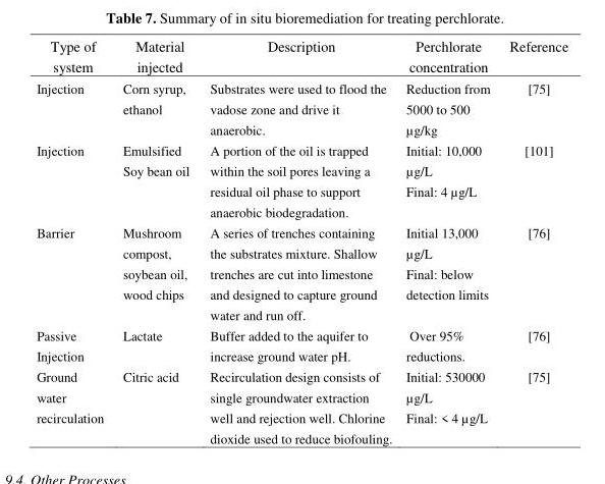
<table><thead><tr><td>Type of system</td><td>Material injected</td><td>Description</td><td>Perchlorate concentration</td><td>Reference</td></tr></thead><tbody><tr><td>Injection</td><td>Corn syrup, ethanol</td><td>Substrates were used to flood the vadose zone and drive it anaerobic.</td><td>Reduction from 5000 to 500 µg/kg</td><td>[75]</td></tr><tr><td>Injection</td><td>Emulsified Soy bean oil</td><td>A portion of the oil is trapped within the soil pores leaving a residual oil phase to support anaerobic biodegradation.</td><td>Initial: 10,000 µg/L Final: 4 µg/L</td><td>[101]</td></tr><tr><td>Barrier</td><td>Mushroom compost, soybean oil, wood chips</td><td>A series of trenches containing the substrates mixture. Shallow trenches are cut into limestone and designed to capture ground water and run off.</td><td>Initial 13,000 µg/L Final: below detection limits</td><td>[76]</td></tr><tr><td>Passive Injection</td><td>Lactate</td><td>Buffer added to the aquifer to increase ground water pH.</td><td>Over 95% reductions.</td><td>[76]</td></tr><tr><td>Ground water recirculation</td><td>Citric acid</td><td>Recirculation design consists of single groundwater extraction well and rejection well. Chlorine dioxide used to reduce biofouling.</td><td>Initial: 530000 µg/L Final: &lt; 4 µg/L</td><td>[75]</td></tr></tbody></table>